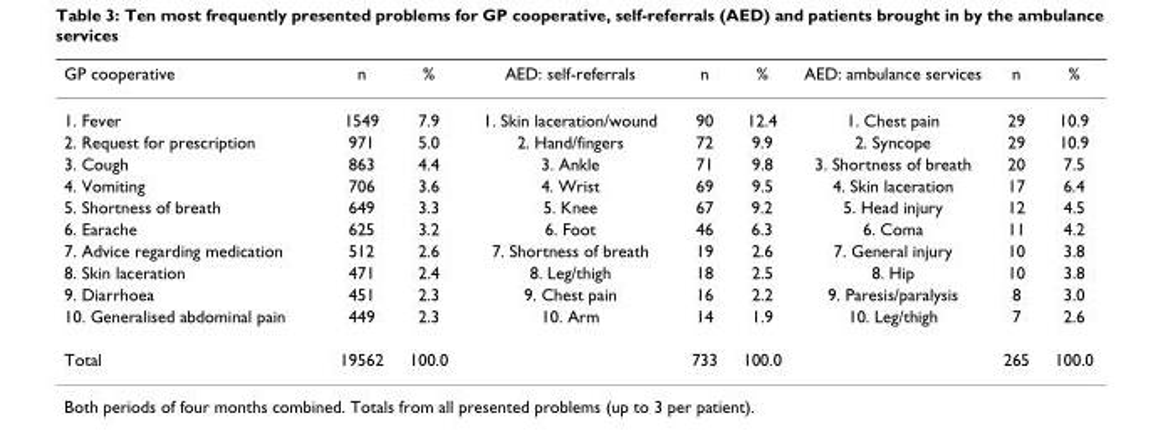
<table><thead><tr><td>GP cooperative</td><td>n</td><td>%</td><td>AED: self-referrals</td><td>n</td><td>%</td><td>AED: ambulance services</td><td>n</td><td>%</td></tr></thead><tbody><tr><td>1. Fever</td><td>1549</td><td>7.9</td><td>1. Skin laceration/wound</td><td>90</td><td>12.4</td><td>1. Chest pain</td><td>29</td><td>10.9</td></tr><tr><td>2. Request for prescription</td><td>971</td><td>5.0</td><td>2. Hand/fingers</td><td>72</td><td>9.9</td><td>2. Syncope</td><td>29</td><td>10.9</td></tr><tr><td>3. Cough</td><td>863</td><td>4.4</td><td>3. Ankle</td><td>71</td><td>9.8</td><td>3. Shortness of breath</td><td>20</td><td>7.5</td></tr><tr><td>4. Vomiting</td><td>706</td><td>3.6</td><td>4. Wrist</td><td>69</td><td>9.5</td><td>4. Skin laceration</td><td>17</td><td>6.4</td></tr><tr><td>5. Shortness of breath</td><td>649</td><td>3.3</td><td>5. Knee</td><td>67</td><td>9.2</td><td>5. Head injury</td><td>12</td><td>4.5</td></tr><tr><td>6. Earache</td><td>625</td><td>3.2</td><td>6. Foot</td><td>46</td><td>6.3</td><td>6. Coma</td><td>11</td><td>4.2</td></tr><tr><td>7. Advice regarding medication</td><td>512</td><td>2.6</td><td>7. Shortness of breath</td><td>19</td><td>2.6</td><td>7. General injury</td><td>10</td><td>3.8</td></tr><tr><td>8. Skin laceration</td><td>471</td><td>2.4</td><td>8. Leg/thigh</td><td>18</td><td>2.5</td><td>8. Hip</td><td>10</td><td>3.8</td></tr><tr><td>9. Diarrhoea</td><td>451</td><td>2.3</td><td>9. Chest pain</td><td>16</td><td>2.2</td><td>9. Paresis/paralysis</td><td>8</td><td>3.0</td></tr><tr><td>10. Generalised abdominal pain</td><td>449</td><td>2.3</td><td>10. Arm</td><td>14</td><td>1.9</td><td>10. Leg/thigh</td><td>7</td><td>2.6</td></tr><tr><td>Total</td><td>19562</td><td>100.0</td><td></td><td>733</td><td>100.0</td><td></td><td>265</td><td>100.0</td></tr></tbody></table>